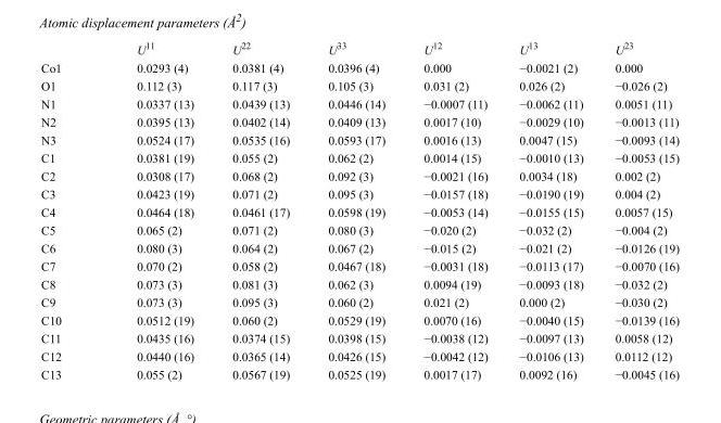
<table><thead><tr><td></td><td>U<sup>11</sup></td><td>U<sup>22</sup></td><td>U<sup>33</sup></td><td>U<sup>12</sup></td><td>U<sup>13</sup></td><td>U<sup>23</sup></td></tr></thead><tbody><tr><td>Co1</td><td>0.0293 (4)</td><td>0.0381 (4)</td><td>0.0396 (4)</td><td>0.000</td><td>−0.0021 (2)</td><td>0.000</td></tr><tr><td>O1</td><td>0.112 (3)</td><td>0.117 (3)</td><td>0.105 (3)</td><td>0.031 (2)</td><td>0.026 (2)</td><td>−0.026 (2)</td></tr><tr><td>N1</td><td>0.0337 (13)</td><td>0.0439 (13)</td><td>0.0446 (14)</td><td>−0.0007 (11)</td><td>−0.0062 (11)</td><td>0.0051 (11)</td></tr><tr><td>N2</td><td>0.0395 (13)</td><td>0.0402 (14)</td><td>0.0409 (13)</td><td>0.0017 (10)</td><td>−0.0029 (10)</td><td>−0.0013 (11)</td></tr><tr><td>N3</td><td>0.0524 (17)</td><td>0.0535 (16)</td><td>0.0593 (17)</td><td>0.0016 (13)</td><td>0.0047 (15)</td><td>−0.0093 (14)</td></tr><tr><td>C1</td><td>0.0381 (19)</td><td>0.055 (2)</td><td>0.062 (2)</td><td>0.0014 (15)</td><td>−0.0010 (13)</td><td>−0.0053 (15)</td></tr><tr><td>C2</td><td>0.0308 (17)</td><td>0.068 (2)</td><td>0.092 (3)</td><td>−0.0021 (16)</td><td>0.0034 (18)</td><td>0.002 (2)</td></tr><tr><td>C3</td><td>0.0423 (19)</td><td>0.071 (2)</td><td>0.095 (3)</td><td>−0.0157 (18)</td><td>−0.0190 (19)</td><td>0.004 (2)</td></tr><tr><td>C4</td><td>0.0464 (18)</td><td>0.0461 (17)</td><td>0.0598 (19)</td><td>−0.0053 (14)</td><td>−0.0155 (15)</td><td>0.0057 (15)</td></tr><tr><td>C5</td><td>0.065 (2)</td><td>0.071 (2)</td><td>0.080 (3)</td><td>−0.020 (2)</td><td>−0.032 (2)</td><td>−0.004 (2)</td></tr><tr><td>C6</td><td>0.080 (3)</td><td>0.064 (2)</td><td>0.067 (2)</td><td>−0.015 (2)</td><td>−0.021 (2)</td><td>−0.0126 (19)</td></tr><tr><td>C7</td><td>0.070 (2)</td><td>0.058 (2)</td><td>0.0467 (18)</td><td>−0.0031 (18)</td><td>−0.0113 (17)</td><td>−0.0070 (16)</td></tr><tr><td>C8</td><td>0.073 (3)</td><td>0.081 (3)</td><td>0.062 (3)</td><td>0.0094 (19)</td><td>−0.0093 (18)</td><td>−0.032 (2)</td></tr><tr><td>C9</td><td>0.073 (3)</td><td>0.095 (3)</td><td>0.060 (2)</td><td>0.021 (2)</td><td>0.000 (2)</td><td>−0.030 (2)</td></tr><tr><td>C10</td><td>0.0512 (19)</td><td>0.060 (2)</td><td>0.0529 (19)</td><td>0.0070 (16)</td><td>−0.0040 (15)</td><td>−0.0139 (16)</td></tr><tr><td>C11</td><td>0.0435 (16)</td><td>0.0374 (15)</td><td>0.0398 (15)</td><td>−0.0038 (12)</td><td>−0.0097 (13)</td><td>0.0058 (12)</td></tr><tr><td>C12</td><td>0.0440 (16)</td><td>0.0365 (14)</td><td>0.0426 (15)</td><td>−0.0042 (12)</td><td>−0.0106 (13)</td><td>0.0112 (12)</td></tr><tr><td>C13</td><td>0.055 (2)</td><td>0.0567 (19)</td><td>0.0525 (19)</td><td>0.0017 (17)</td><td>0.0092 (16)</td><td>−0.0045 (16)</td></tr></tbody></table>